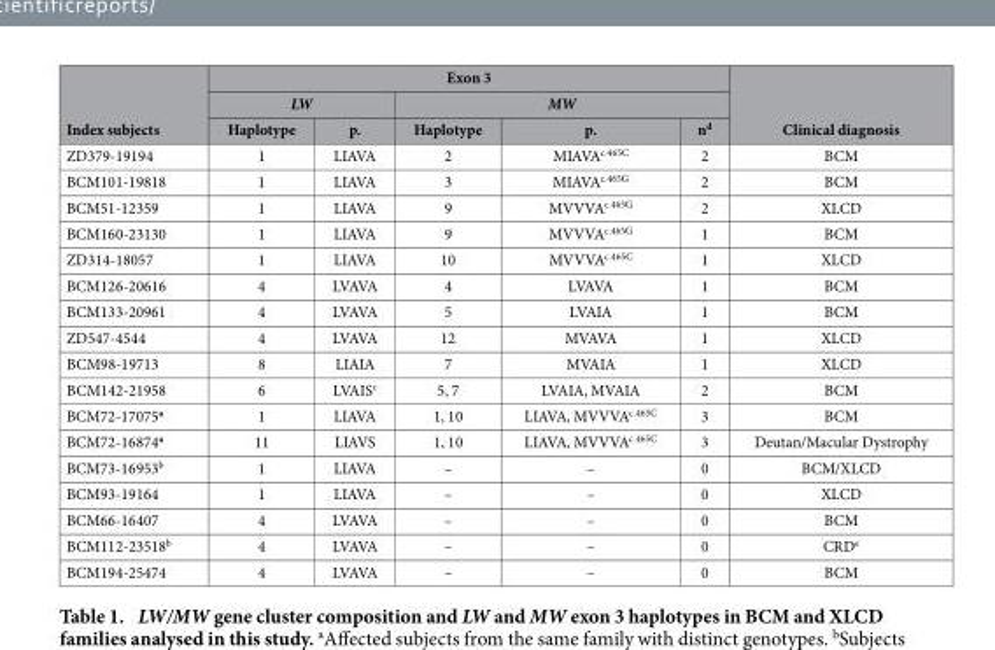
<table><thead><tr><td rowspan="3">Index subjects</td><td colspan="5">Exon 3</td><td rowspan="3">Clinical diagnosis</td></tr><tr><td colspan="2">LW</td><td colspan="3">MW</td></tr><tr><td>Haplotype</td><td>p.</td><td>Haplotype</td><td>p.</td><td>n<sup>d</sup></td></tr></thead><tbody><tr><td>ZD379-19194</td><td>1</td><td>LIAVA</td><td>2</td><td>MIAVA<sup>c.465C</sup></td><td>2</td><td>BCM</td></tr><tr><td>BCM101-19818</td><td>1</td><td>LIAVA</td><td>3</td><td>MIAVA<sup>c.465G</sup></td><td>2</td><td>BCM</td></tr><tr><td>BCM51-12359</td><td>1</td><td>LIAVA</td><td>9</td><td>MVVVA<sup>c.465G</sup></td><td>2</td><td>XLCD</td></tr><tr><td>BCM160-23130</td><td>1</td><td>LIAVA</td><td>9</td><td>MVVVA<sup>c.465G</sup></td><td>1</td><td>BCM</td></tr><tr><td>ZD314-18057</td><td>1</td><td>LIAVA</td><td>10</td><td>MVVVA<sup>c.465C</sup></td><td>1</td><td>XLCD</td></tr><tr><td>BCM126-20616</td><td>4</td><td>LVAVA</td><td>4</td><td>LVAVA</td><td>1</td><td>BCM</td></tr><tr><td>BCM133-20961</td><td>4</td><td>LVAVA</td><td>5</td><td>LVAIA</td><td>1</td><td>BCM</td></tr><tr><td>ZD547-4544</td><td>4</td><td>LVAVA</td><td>12</td><td>MVAVA</td><td>1</td><td>XLCD</td></tr><tr><td>BCM98-19713</td><td>8</td><td>LIAIA</td><td>7</td><td>MVAIA</td><td>1</td><td>XLCD</td></tr><tr><td>BCM142-21958</td><td>6</td><td>LVAIS<sup>c</sup></td><td>5, 7</td><td>LVAIA, MVAIA</td><td>2</td><td>BCM</td></tr><tr><td>BCM72-17075<sup>a</sup></td><td>1</td><td>LIAVA</td><td>1, 10</td><td>LIAVA, MVVVA<sup>c.465C</sup></td><td>3</td><td>BCM</td></tr><tr><td>BCM72-16874<sup>a</sup></td><td>11</td><td>LIAVS</td><td>1, 10</td><td>LIAVA, MVVVA<sup>c.465C</sup></td><td>3</td><td>Deutan/Macular Dystrophy</td></tr><tr><td>BCM73-16953<sup>b</sup></td><td>1</td><td>LIAVA</td><td>–</td><td>–</td><td>0</td><td>BCM/XLCD</td></tr><tr><td>BCM93-19164</td><td>1</td><td>LIAVA</td><td>–</td><td>–</td><td>0</td><td>XLCD</td></tr><tr><td>BCM66-16407</td><td>4</td><td>LVAVA</td><td>–</td><td>–</td><td>0</td><td>BCM</td></tr><tr><td>BCM112-23518<sup>b</sup></td><td>4</td><td>LVAVA</td><td>–</td><td>–</td><td>0</td><td>CRD<sup>e</sup></td></tr><tr><td>BCM194-25474</td><td>4</td><td>LVAVA</td><td>–</td><td>–</td><td>0</td><td>BCM</td></tr></tbody></table>